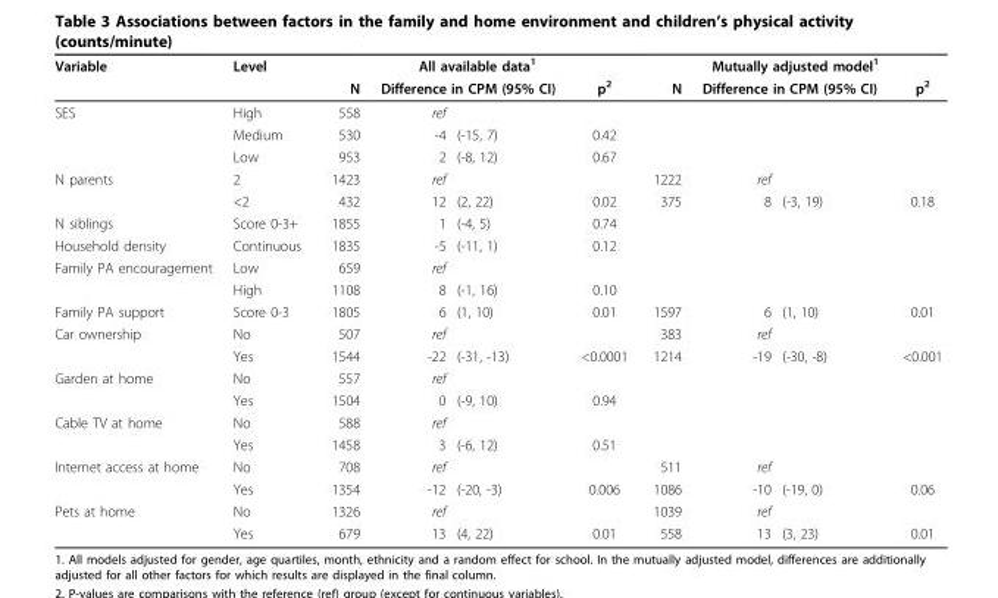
<table><thead><tr><td rowspan="3">Variable SES</td><td rowspan="3">Level High</td><td colspan="4">All available data<sup>1</sup></td><td colspan="4">Mutually adjusted model<sup>1</sup></td></tr><tr><td rowspan="2">N 558</td><td colspan="2">Difference in CPM (95% CI)</td><td rowspan="2">p<sup>2</sup></td><td rowspan="2">N</td><td colspan="2">Difference in CPM (95% CI)</td><td rowspan="2">p<sup>2</sup></td></tr><tr><td>ref</td><td></td><td></td><td></td></tr></thead><tbody><tr><td></td><td>Medium</td><td>530</td><td>-4</td><td>(-15, 7)</td><td>0.42</td><td></td><td></td><td></td><td></td></tr><tr><td></td><td>Low</td><td>953</td><td>2</td><td>(-8, 12)</td><td>0.67</td><td></td><td></td><td></td><td></td></tr><tr><td rowspan="2">N parents</td><td>2</td><td>1423</td><td>ref</td><td></td><td></td><td>1222</td><td>ref</td><td></td><td></td></tr><tr><td>&lt;2</td><td>432</td><td>12</td><td>(2, 22)</td><td>0.02</td><td>375</td><td>8</td><td>(-3, 19)</td><td>0.18</td></tr><tr><td>N siblings</td><td>Score 0-3+</td><td>1855</td><td>1</td><td>(-4, 5)</td><td>0.74</td><td></td><td></td><td></td><td></td></tr><tr><td>Household density</td><td>Continuous</td><td>1835</td><td>-5</td><td>(-11, 1)</td><td>0.12</td><td></td><td></td><td></td><td></td></tr><tr><td rowspan="2">Family PA encouragement</td><td>Low</td><td>659</td><td>ref</td><td></td><td></td><td></td><td></td><td></td><td></td></tr><tr><td>High</td><td>1108</td><td>8</td><td>(-1, 16)</td><td>0.10</td><td></td><td></td><td></td><td></td></tr><tr><td>Family PA support</td><td>Score 0-3</td><td>1805</td><td>6</td><td>(1, 10)</td><td>0.01</td><td>1597</td><td>6</td><td>(1, 10)</td><td>0.01</td></tr><tr><td rowspan="2">Car ownership</td><td>No</td><td>507</td><td>ref</td><td></td><td></td><td>383</td><td>ref</td><td></td><td></td></tr><tr><td>Yes</td><td>1544</td><td>-22</td><td>(-31, -13)</td><td>&lt;0.0001</td><td>1214</td><td>-19</td><td>(-30, -8)</td><td>&lt;0.001</td></tr><tr><td rowspan="2">Garden at home</td><td>No</td><td>557</td><td>ref</td><td></td><td></td><td></td><td></td><td></td><td></td></tr><tr><td>Yes</td><td>1504</td><td>0</td><td>(-9, 10)</td><td>0.94</td><td></td><td></td><td></td><td></td></tr><tr><td rowspan="2">Cable TV at home</td><td>No</td><td>588</td><td>ref</td><td></td><td></td><td></td><td></td><td></td><td></td></tr><tr><td>Yes</td><td>1458</td><td>3</td><td>(-6, 12)</td><td>0.51</td><td></td><td></td><td></td><td></td></tr><tr><td rowspan="2">Internet access at home</td><td>No</td><td>708</td><td>ref</td><td></td><td></td><td>511</td><td>ref</td><td></td><td></td></tr><tr><td>Yes</td><td>1354</td><td>-12</td><td>(-20, -3)</td><td>0.006</td><td>1086</td><td>-10</td><td>(-19, 0)</td><td>0.06</td></tr><tr><td rowspan="2">Pets at home</td><td>No</td><td>1326</td><td>ref</td><td></td><td></td><td>1039</td><td>ref</td><td></td><td></td></tr><tr><td>Yes</td><td>679</td><td>13</td><td>(4, 22)</td><td>0.01</td><td>558</td><td>13</td><td>(3, 23)</td><td>0.01</td></tr></tbody></table>